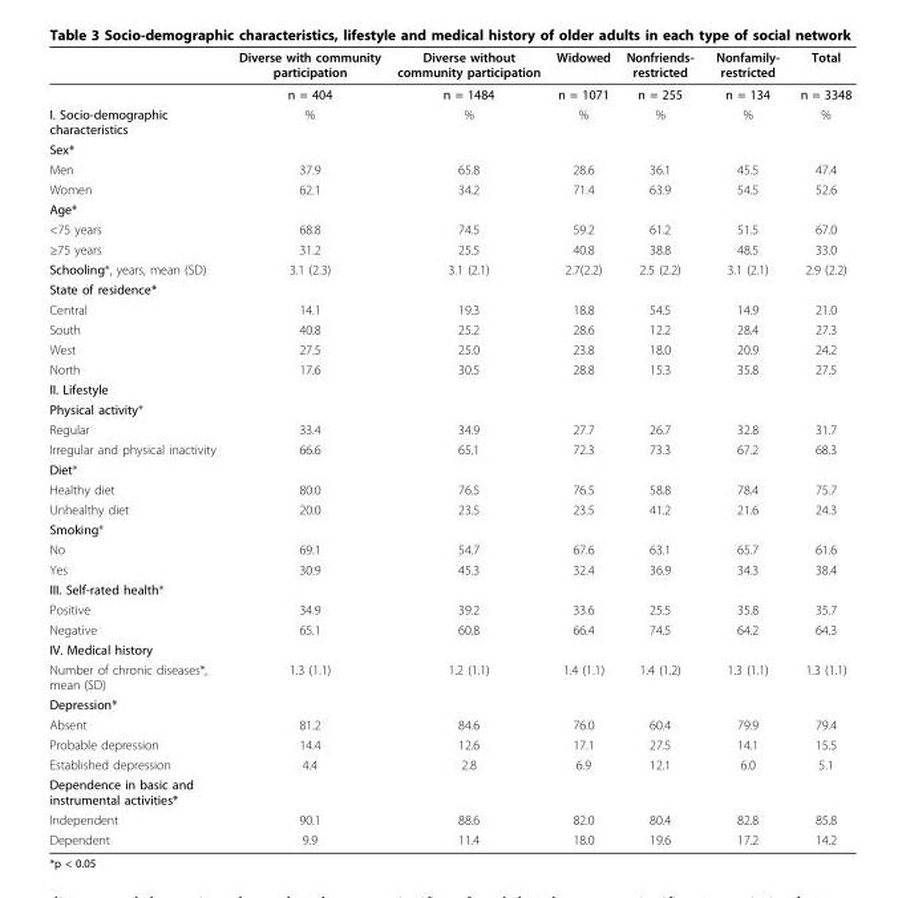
<table><thead><tr><td></td><td>Diverse with community participation</td><td>Diverse without community participation</td><td>Widowed</td><td>Nonfriends- restricted</td><td>Nonfamily- restricted</td><td>Total</td></tr></thead><tbody><tr><td></td><td>n = 404</td><td>n = 1484</td><td>n = 1071</td><td>n = 255</td><td>n = 134</td><td>n = 3348</td></tr><tr><td>I. Socio-demographic characteristics</td><td>%</td><td>%</td><td>%</td><td>%</td><td>%</td><td>%</td></tr><tr><td colspan="7">Sex*</td></tr><tr><td>Men</td><td>37.9</td><td>65.8</td><td>28.6</td><td>36.1</td><td>45.5</td><td>47.4</td></tr><tr><td>Women</td><td>62.1</td><td>34.2</td><td>71.4</td><td>63.9</td><td>54.5</td><td>52.6</td></tr><tr><td colspan="7">Age*</td></tr><tr><td>&lt;75 years</td><td>68.8</td><td>74.5</td><td>59.2</td><td>61.2</td><td>51.5</td><td>67.0</td></tr><tr><td>≥75 years</td><td>31.2</td><td>25.5</td><td>40.8</td><td>38.8</td><td>48.5</td><td>33.0</td></tr><tr><td>Schooling*, years, mean (SD)</td><td>3.1 (2.3)</td><td>3.1 (2.1)</td><td>2.7(2.2)</td><td>2.5 (2.2)</td><td>3.1 (2.1)</td><td>2.9 (2.2)</td></tr><tr><td colspan="7">State of residence*</td></tr><tr><td>Central</td><td>14.1</td><td>19.3</td><td>18.8</td><td>54.5</td><td>14.9</td><td>21.0</td></tr><tr><td>South</td><td>40.8</td><td>25.2</td><td>28.6</td><td>12.2</td><td>28.4</td><td>27.3</td></tr><tr><td>West</td><td>27.5</td><td>25.0</td><td>23.8</td><td>18.0</td><td>20.9</td><td>24.2</td></tr><tr><td>North</td><td>17.6</td><td>30.5</td><td>28.8</td><td>15.3</td><td>35.8</td><td>27.5</td></tr><tr><td colspan="7">II. Lifestyle</td></tr><tr><td colspan="7">Physical activity*</td></tr><tr><td>Regular</td><td>33.4</td><td>34.9</td><td>27.7</td><td>26.7</td><td>32.8</td><td>31.7</td></tr><tr><td>Irregular and physical inactivity</td><td>66.6</td><td>65.1</td><td>72.3</td><td>73.3</td><td>67.2</td><td>68.3</td></tr><tr><td colspan="7">Diet*</td></tr><tr><td>Healthy diet</td><td>80.0</td><td>76.5</td><td>76.5</td><td>58.8</td><td>78.4</td><td>75.7</td></tr><tr><td>Unhealthy diet</td><td>20.0</td><td>23.5</td><td>23.5</td><td>41.2</td><td>21.6</td><td>24.3</td></tr><tr><td colspan="7">Smoking*</td></tr><tr><td>No</td><td>69.1</td><td>54.7</td><td>67.6</td><td>63.1</td><td>65.7</td><td>61.6</td></tr><tr><td>Yes</td><td>30.9</td><td>45.3</td><td>32.4</td><td>36.9</td><td>34.3</td><td>38.4</td></tr><tr><td colspan="7">III. Self-rated health*</td></tr><tr><td>Positive</td><td>34.9</td><td>39.2</td><td>33.6</td><td>25.5</td><td>35.8</td><td>35.7</td></tr><tr><td>Negative</td><td>65.1</td><td>60.8</td><td>66.4</td><td>74.5</td><td>64.2</td><td>64.3</td></tr><tr><td colspan="7">IV. Medical history</td></tr><tr><td>Number of chronic diseases*, mean (SD)</td><td>1.3 (1.1)</td><td>1.2 (1.1)</td><td>1.4 (1.1)</td><td>1.4 (1.2)</td><td>1.3 (1.1)</td><td>1.3 (1.1)</td></tr><tr><td colspan="7">Depression*</td></tr><tr><td>Absent</td><td>81.2</td><td>84.6</td><td>76.0</td><td>60.4</td><td>79.9</td><td>79.4</td></tr><tr><td>Probable depression</td><td>14.4</td><td>12.6</td><td>17.1</td><td>27.5</td><td>14.1</td><td>15.5</td></tr><tr><td>Established depression</td><td>4.4</td><td>2.8</td><td>6.9</td><td>12.1</td><td>6.0</td><td>5.1</td></tr><tr><td colspan="7">Dependence in basic and instrumental activities*</td></tr><tr><td>Independent</td><td>90.1</td><td>88.6</td><td>82.0</td><td>80.4</td><td>82.8</td><td>85.8</td></tr><tr><td>Dependent</td><td>9.9</td><td>11.4</td><td>18.0</td><td>19.6</td><td>17.2</td><td>14.2</td></tr></tbody></table>